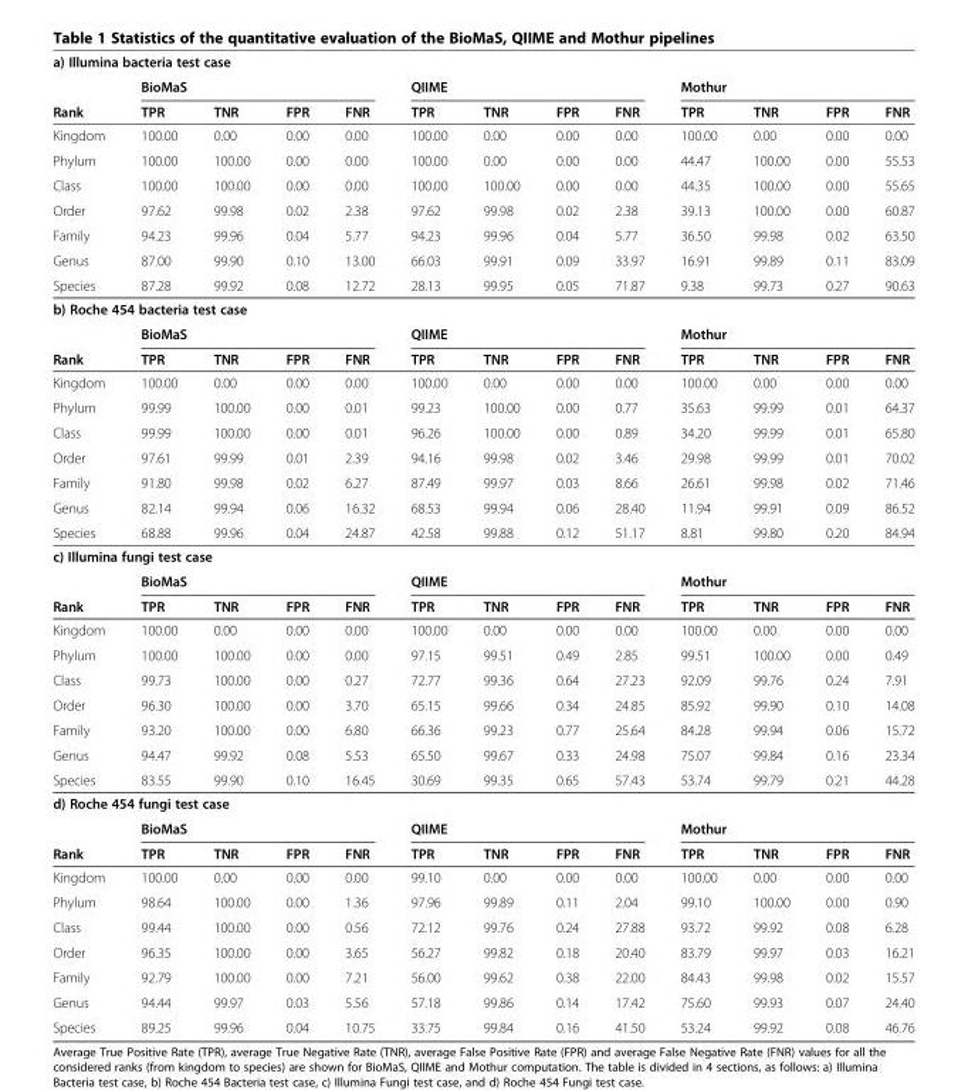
<table><tbody><tr><td colspan="13">a) Illumina bacteria test case</td></tr><tr><td></td><td colspan="4">BioMaS</td><td colspan="4">QIIME</td><td colspan="4">Mothur</td></tr><tr><td>Rank</td><td>TPR</td><td>TNR</td><td>FPR</td><td>FNR</td><td>TPR</td><td>TNR</td><td>FPR</td><td>FNR</td><td>TPR</td><td>TNR</td><td>FPR</td><td>FNR</td></tr><tr><td>Kingdom</td><td>100.00</td><td>0.00</td><td>0.00</td><td>0.00</td><td>100.00</td><td>0.00</td><td>0.00</td><td>0.00</td><td>100.00</td><td>0.00</td><td>0.00</td><td>0.00</td></tr><tr><td>Phylum</td><td>100.00</td><td>100.00</td><td>0.00</td><td>0.00</td><td>100.00</td><td>0.00</td><td>0.00</td><td>0.00</td><td>44.47</td><td>100.00</td><td>0.00</td><td>55.53</td></tr><tr><td>Class</td><td>100.00</td><td>100.00</td><td>0.00</td><td>0.00</td><td>100.00</td><td>100.00</td><td>0.00</td><td>0.00</td><td>44.35</td><td>100.00</td><td>0.00</td><td>55.65</td></tr><tr><td>Order</td><td>97.62</td><td>99.98</td><td>0.02</td><td>2.38</td><td>97.62</td><td>99.98</td><td>0.02</td><td>2.38</td><td>39.13</td><td>100.00</td><td>0.00</td><td>60.87</td></tr><tr><td>Family</td><td>94.23</td><td>99.96</td><td>0.04</td><td>5.77</td><td>94.23</td><td>99.96</td><td>0.04</td><td>5.77</td><td>36.50</td><td>99.98</td><td>0.02</td><td>63.50</td></tr><tr><td>Genus</td><td>87.00</td><td>99.90</td><td>0.10</td><td>13.00</td><td>66.03</td><td>99.91</td><td>0.09</td><td>33.97</td><td>16.91</td><td>99.89</td><td>0.11</td><td>83.09</td></tr><tr><td>Species</td><td>87.28</td><td>99.92</td><td>0.08</td><td>12.72</td><td>28.13</td><td>99.95</td><td>0.05</td><td>71.87</td><td>9.38</td><td>99.73</td><td>0.27</td><td>90.63</td></tr><tr><td colspan="13">b) Roche 454 bacteria test case</td></tr><tr><td></td><td colspan="4">BioMaS</td><td colspan="4">QIIME</td><td colspan="4">Mothur</td></tr><tr><td>Rank</td><td>TPR</td><td>TNR</td><td>FPR</td><td>FNR</td><td>TPR</td><td>TNR</td><td>FPR</td><td>FNR</td><td>TPR</td><td>TNR</td><td>FPR</td><td>FNR</td></tr><tr><td>Kingdom</td><td>100.00</td><td>0.00</td><td>0.00</td><td>0.00</td><td>100.00</td><td>0.00</td><td>0.00</td><td>0.00</td><td>100.00</td><td>0.00</td><td>0.00</td><td>0.00</td></tr><tr><td>Phylum</td><td>99.99</td><td>100.00</td><td>0.00</td><td>0.01</td><td>99.23</td><td>100.00</td><td>0.00</td><td>0.77</td><td>35.63</td><td>99.99</td><td>0.01</td><td>64.37</td></tr><tr><td>Class</td><td>99.99</td><td>100.00</td><td>0.00</td><td>0.01</td><td>96.26</td><td>100.00</td><td>0.00</td><td>0.89</td><td>34.20</td><td>99.99</td><td>0.01</td><td>65.80</td></tr><tr><td>Order</td><td>97.61</td><td>99.99</td><td>0.01</td><td>2.39</td><td>94.16</td><td>99.98</td><td>0.02</td><td>3.46</td><td>29.98</td><td>99.99</td><td>0.01</td><td>70.02</td></tr><tr><td>Family</td><td>91.80</td><td>99.98</td><td>0.02</td><td>6.27</td><td>87.49</td><td>99.97</td><td>0.03</td><td>8.66</td><td>26.61</td><td>99.98</td><td>0.02</td><td>71.46</td></tr><tr><td>Genus</td><td>82.14</td><td>99.94</td><td>0.06</td><td>16.32</td><td>68.53</td><td>99.94</td><td>0.06</td><td>28.40</td><td>11.94</td><td>99.91</td><td>0.09</td><td>86.52</td></tr><tr><td>Species</td><td>68.88</td><td>99.96</td><td>0.04</td><td>24.87</td><td>42.58</td><td>99.88</td><td>0.12</td><td>51.17</td><td>8.81</td><td>99.80</td><td>0.20</td><td>84.94</td></tr><tr><td colspan="13">c) Illumina fungi test case</td></tr><tr><td></td><td colspan="4">BioMaS</td><td colspan="4">QIIME</td><td colspan="4">Mothur</td></tr><tr><td>Rank</td><td>TPR</td><td>TNR</td><td>FPR</td><td>FNR</td><td>TPR</td><td>TNR</td><td>FPR</td><td>FNR</td><td>TPR</td><td>TNR</td><td>FPR</td><td>FNR</td></tr><tr><td>Kingdom</td><td>100.00</td><td>0.00</td><td>0.00</td><td>0.00</td><td>100.00</td><td>0.00</td><td>0.00</td><td>0.00</td><td>100.00</td><td>0.00</td><td>0.00</td><td>0.00</td></tr><tr><td>Phylum</td><td>100.00</td><td>100.00</td><td>0.00</td><td>0.00</td><td>97.15</td><td>99.51</td><td>0.49</td><td>2.85</td><td>99.51</td><td>100.00</td><td>0.00</td><td>0.49</td></tr><tr><td>Class</td><td>99.73</td><td>100.00</td><td>0.00</td><td>0.27</td><td>72.77</td><td>99.36</td><td>0.64</td><td>27.23</td><td>92.09</td><td>99.76</td><td>0.24</td><td>7.91</td></tr><tr><td>Order</td><td>96.30</td><td>100.00</td><td>0.00</td><td>3.70</td><td>65.15</td><td>99.66</td><td>0.34</td><td>24.85</td><td>85.92</td><td>99.90</td><td>0.10</td><td>14.08</td></tr><tr><td>Family</td><td>93.20</td><td>100.00</td><td>0.00</td><td>6.80</td><td>66.36</td><td>99.23</td><td>0.77</td><td>25.64</td><td>84.28</td><td>99.94</td><td>0.06</td><td>15.72</td></tr><tr><td>Genus</td><td>94.47</td><td>99.92</td><td>0.08</td><td>5.53</td><td>65.50</td><td>99.67</td><td>0.33</td><td>24.98</td><td>75.07</td><td>99.84</td><td>0.16</td><td>23.34</td></tr><tr><td>Species</td><td>83.55</td><td>99.90</td><td>0.10</td><td>16.45</td><td>30.69</td><td>99.35</td><td>0.65</td><td>57.43</td><td>53.74</td><td>99.79</td><td>0.21</td><td>44.28</td></tr><tr><td colspan="13">d) Roche 454 fungi test case</td></tr><tr><td></td><td colspan="4">BioMaS</td><td colspan="4">QIIME</td><td colspan="4">Mothur</td></tr><tr><td>Rank</td><td>TPR</td><td>TNR</td><td>FPR</td><td>FNR</td><td>TPR</td><td>TNR</td><td>FPR</td><td>FNR</td><td>TPR</td><td>TNR</td><td>FPR</td><td>FNR</td></tr><tr><td>Kingdom</td><td>100.00</td><td>0.00</td><td>0.00</td><td>0.00</td><td>99.10</td><td>0.00</td><td>0.00</td><td>0.00</td><td>100.00</td><td>0.00</td><td>0.00</td><td>0.00</td></tr><tr><td>Phylum</td><td>98.64</td><td>100.00</td><td>0.00</td><td>1.36</td><td>97.96</td><td>99.89</td><td>0.11</td><td>2.04</td><td>99.10</td><td>100.00</td><td>0.00</td><td>0.90</td></tr><tr><td>Class</td><td>99.44</td><td>100.00</td><td>0.00</td><td>0.56</td><td>72.12</td><td>99.76</td><td>0.24</td><td>27.88</td><td>93.72</td><td>99.92</td><td>0.08</td><td>6.28</td></tr><tr><td>Order</td><td>96.35</td><td>100.00</td><td>0.00</td><td>3.65</td><td>56.27</td><td>99.82</td><td>0.18</td><td>20.40</td><td>83.79</td><td>99.97</td><td>0.03</td><td>16.21</td></tr><tr><td>Family</td><td>92.79</td><td>100.00</td><td>0.00</td><td>7.21</td><td>56.00</td><td>99.62</td><td>0.38</td><td>22.00</td><td>84.43</td><td>99.98</td><td>0.02</td><td>15.57</td></tr><tr><td>Genus</td><td>94.44</td><td>99.97</td><td>0.03</td><td>5.56</td><td>57.18</td><td>99.86</td><td>0.14</td><td>17.42</td><td>75.60</td><td>99.93</td><td>0.07</td><td>24.40</td></tr><tr><td>Species</td><td>89.25</td><td>99.96</td><td>0.04</td><td>10.75</td><td>33.75</td><td>99.84</td><td>0.16</td><td>41.50</td><td>53.24</td><td>99.92</td><td>0.08</td><td>46.76</td></tr></tbody></table>